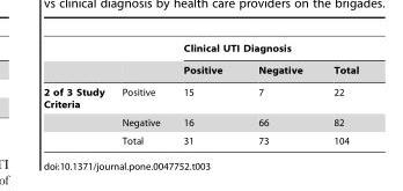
<table><thead><tr><td rowspan="2"></td><td rowspan="2"></td><td colspan="3">Clinical UTI Diagnosis</td></tr><tr><td>Positive</td><td>Negative</td><td>Total</td></tr></thead><tbody><tr><td rowspan="3">2 of 3 Study Criteria</td><td>Positive</td><td>15</td><td>7</td><td>22</td></tr><tr><td>Negative</td><td>16</td><td>66</td><td>82</td></tr><tr><td>Total</td><td>31</td><td>73</td><td>104</td></tr></tbody></table>